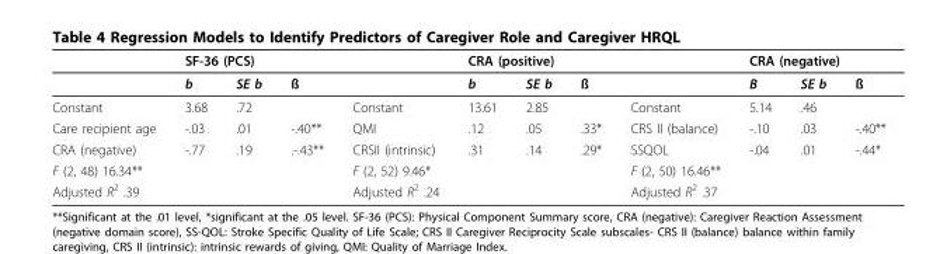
<table><thead><tr><td rowspan="2"></td><td colspan="3">SF-36 (PCS)</td><td rowspan="2"></td><td colspan="3">CRA (positive)</td><td rowspan="2"></td><td colspan="3">CRA (negative)</td></tr><tr><td>b</td><td>SE b</td><td>ß</td><td>b</td><td>SE b</td><td>ß</td><td>B</td><td>SE b</td><td>ß</td></tr></thead><tbody><tr><td>Constant</td><td>3.68</td><td>.72</td><td></td><td>Constant</td><td>13.61</td><td>2.85</td><td></td><td>Constant</td><td>5.14</td><td>.46</td><td></td></tr><tr><td>Care recipient age</td><td>-.03</td><td>.01</td><td>-.40**</td><td>QMI</td><td>.12</td><td>.05</td><td>.33*</td><td>CRS II (balance)</td><td>-.10</td><td>.03</td><td>-.40**</td></tr><tr><td>CRA (negative)</td><td>-.77</td><td>.19</td><td>.-.43**</td><td>CRSII (intrinsic)</td><td>.31</td><td>.14</td><td>.29*</td><td>SSQOL</td><td>-.04</td><td>.01</td><td>-.44*</td></tr><tr><td>F (2, 48) 16.34**</td><td></td><td></td><td></td><td>F (2, 52) 9.46*</td><td></td><td></td><td></td><td>F (2, 50) 16.46**</td><td></td><td></td><td></td></tr><tr><td>Adjusted R<sup>2</sup> .39</td><td></td><td></td><td></td><td>Adjusted R<sup>2</sup> .24</td><td></td><td></td><td></td><td>Adjusted R<sup>2</sup> .37</td><td></td><td></td><td></td></tr></tbody></table>